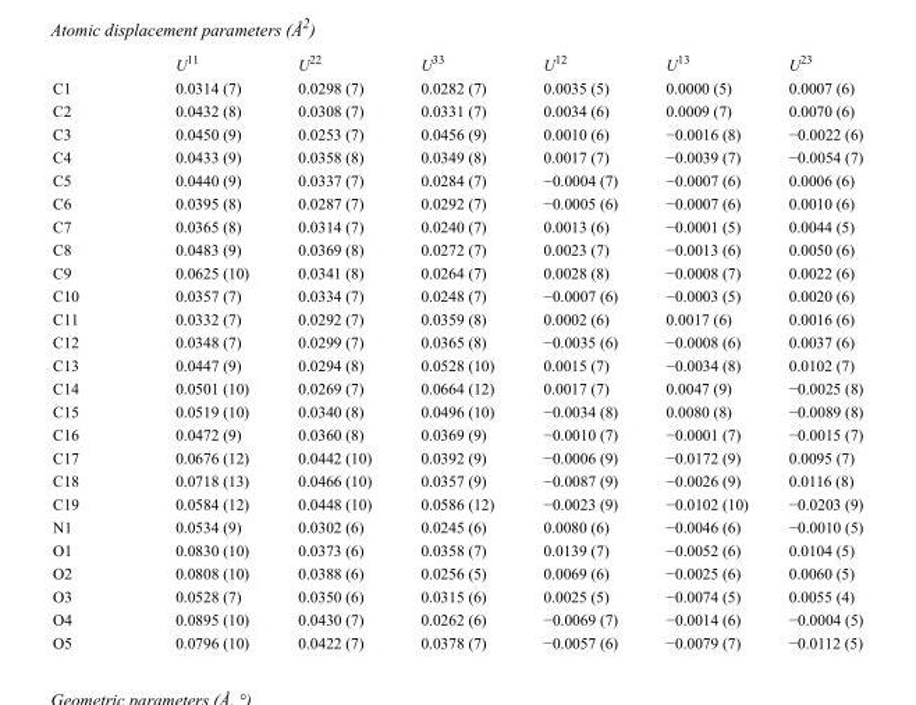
<table><thead><tr><td></td><td>U<sup>11</sup></td><td>U<sup>22</sup></td><td>U<sup>33</sup></td><td>U<sup>12</sup></td><td>U<sup>13</sup></td><td>U<sup>23</sup></td></tr></thead><tbody><tr><td>C1</td><td>0.0314 (7)</td><td>0.0298 (7)</td><td>0.0282 (7)</td><td>0.0035 (5)</td><td>0.0000 (5)</td><td>0.0007 (6)</td></tr><tr><td>C2</td><td>0.0432 (8)</td><td>0.0308 (7)</td><td>0.0331 (7)</td><td>0.0034 (6)</td><td>0.0009 (7)</td><td>0.0070 (6)</td></tr><tr><td>C3</td><td>0.0450 (9)</td><td>0.0253 (7)</td><td>0.0456 (9)</td><td>0.0010 (6)</td><td>−0.0016 (8)</td><td>−0.0022 (6)</td></tr><tr><td>C4</td><td>0.0433 (9)</td><td>0.0358 (8)</td><td>0.0349 (8)</td><td>0.0017 (7)</td><td>−0.0039 (7)</td><td>−0.0054 (7)</td></tr><tr><td>C5</td><td>0.0440 (9)</td><td>0.0337 (7)</td><td>0.0284 (7)</td><td>−0.0004 (7)</td><td>−0.0007 (6)</td><td>0.0006 (6)</td></tr><tr><td>C6</td><td>0.0395 (8)</td><td>0.0287 (7)</td><td>0.0292 (7)</td><td>−0.0005 (6)</td><td>−0.0007 (6)</td><td>0.0010 (6)</td></tr><tr><td>C7</td><td>0.0365 (8)</td><td>0.0314 (7)</td><td>0.0240 (7)</td><td>0.0013 (6)</td><td>−0.0001 (5)</td><td>0.0044 (5)</td></tr><tr><td>C8</td><td>0.0483 (9)</td><td>0.0369 (8)</td><td>0.0272 (7)</td><td>0.0023 (7)</td><td>−0.0013 (6)</td><td>0.0050 (6)</td></tr><tr><td>C9</td><td>0.0625 (10)</td><td>0.0341 (8)</td><td>0.0264 (7)</td><td>0.0028 (8)</td><td>−0.0008 (7)</td><td>0.0022 (6)</td></tr><tr><td>C10</td><td>0.0357 (7)</td><td>0.0334 (7)</td><td>0.0248 (7)</td><td>−0.0007 (6)</td><td>−0.0003 (5)</td><td>0.0020 (6)</td></tr><tr><td>C11</td><td>0.0332 (7)</td><td>0.0292 (7)</td><td>0.0359 (8)</td><td>0.0002 (6)</td><td>0.0017 (6)</td><td>0.0016 (6)</td></tr><tr><td>C12</td><td>0.0348 (7)</td><td>0.0299 (7)</td><td>0.0365 (8)</td><td>−0.0035 (6)</td><td>−0.0008 (6)</td><td>0.0037 (6)</td></tr><tr><td>C13</td><td>0.0447 (9)</td><td>0.0294 (8)</td><td>0.0528 (10)</td><td>0.0015 (7)</td><td>−0.0034 (8)</td><td>0.0102 (7)</td></tr><tr><td>C14</td><td>0.0501 (10)</td><td>0.0269 (7)</td><td>0.0664 (12)</td><td>0.0017 (7)</td><td>0.0047 (9)</td><td>−0.0025 (8)</td></tr><tr><td>C15</td><td>0.0519 (10)</td><td>0.0340 (8)</td><td>0.0496 (10)</td><td>−0.0034 (8)</td><td>0.0080 (8)</td><td>−0.0089 (8)</td></tr><tr><td>C16</td><td>0.0472 (9)</td><td>0.0360 (8)</td><td>0.0369 (9)</td><td>−0.0010 (7)</td><td>−0.0001 (7)</td><td>−0.0015 (7)</td></tr><tr><td>C17</td><td>0.0676 (12)</td><td>0.0442 (10)</td><td>0.0392 (9)</td><td>−0.0006 (9)</td><td>−0.0172 (9)</td><td>0.0095 (7)</td></tr><tr><td>C18</td><td>0.0718 (13)</td><td>0.0466 (10)</td><td>0.0357 (9)</td><td>−0.0087 (9)</td><td>−0.0026 (9)</td><td>0.0116 (8)</td></tr><tr><td>C19</td><td>0.0584 (12)</td><td>0.0448 (10)</td><td>0.0586 (12)</td><td>−0.0023 (9)</td><td>−0.0102 (10)</td><td>−0.0203 (9)</td></tr><tr><td>N1</td><td>0.0534 (9)</td><td>0.0302 (6)</td><td>0.0245 (6)</td><td>0.0080 (6)</td><td>−0.0046 (6)</td><td>−0.0010 (5)</td></tr><tr><td>O1</td><td>0.0830 (10)</td><td>0.0373 (6)</td><td>0.0358 (7)</td><td>0.0139 (7)</td><td>−0.0052 (6)</td><td>0.0104 (5)</td></tr><tr><td>O2</td><td>0.0808 (10)</td><td>0.0388 (6)</td><td>0.0256 (5)</td><td>0.0069 (6)</td><td>−0.0025 (6)</td><td>0.0060 (5)</td></tr><tr><td>O3</td><td>0.0528 (7)</td><td>0.0350 (6)</td><td>0.0315 (6)</td><td>0.0025 (5)</td><td>−0.0074 (5)</td><td>0.0055 (4)</td></tr><tr><td>O4</td><td>0.0895 (10)</td><td>0.0430 (7)</td><td>0.0262 (6)</td><td>−0.0069 (7)</td><td>−0.0014 (6)</td><td>−0.0004 (5)</td></tr><tr><td>O5</td><td>0.0796 (10)</td><td>0.0422 (7)</td><td>0.0378 (7)</td><td>−0.0057 (6)</td><td>−0.0079 (7)</td><td>−0.0112 (5)</td></tr></tbody></table>